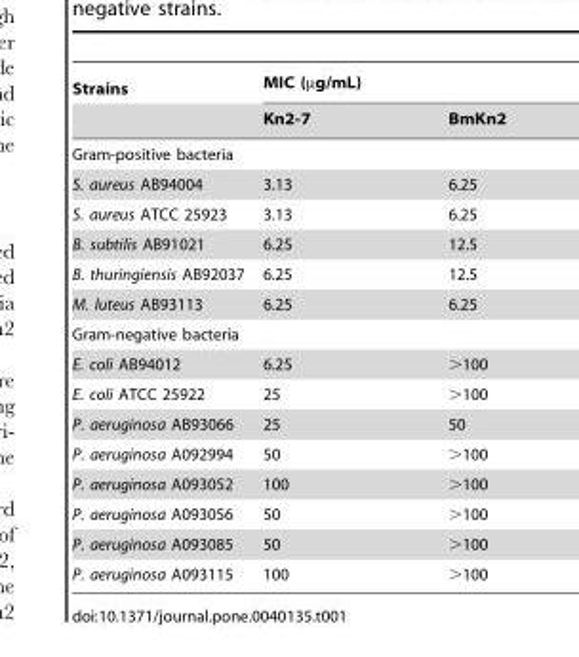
<table><thead><tr><td rowspan="2">Strains</td><td colspan="2">MIC (µg/mL)</td></tr><tr><td>Kn2-7</td><td>BmKn2</td></tr></thead><tbody><tr><td colspan="3">Gram-positive bacteria</td></tr><tr><td>S. aureus AB94004</td><td>3.13</td><td>6.25</td></tr><tr><td>S. aureus ATCC 25923</td><td>3.13</td><td>6.25</td></tr><tr><td>B. subtilis AB91021</td><td>6.25</td><td>12.5</td></tr><tr><td>B. thuringiensis AB92037</td><td>6.25</td><td>12.5</td></tr><tr><td>M. luteus AB93113</td><td>6.25</td><td>6.25</td></tr><tr><td colspan="3">Gram-negative bacteria</td></tr><tr><td>E. coli AB94012</td><td>6.25</td><td>&gt;100</td></tr><tr><td>E. coli ATCC 25922</td><td>25</td><td>&gt;100</td></tr><tr><td>P. aeruginosa AB93066</td><td>25</td><td>50</td></tr><tr><td>P. aeruginosa A092994</td><td>50</td><td>&gt;100</td></tr><tr><td>P. aeruginosa A093052</td><td>100</td><td>&gt;100</td></tr><tr><td>P. aeruginosa A093056</td><td>50</td><td>&gt;100</td></tr><tr><td>P. aeruginosa A093085</td><td>50</td><td>&gt;100</td></tr><tr><td>P. aeruginosa A093115</td><td>100</td><td>&gt;100</td></tr></tbody></table>